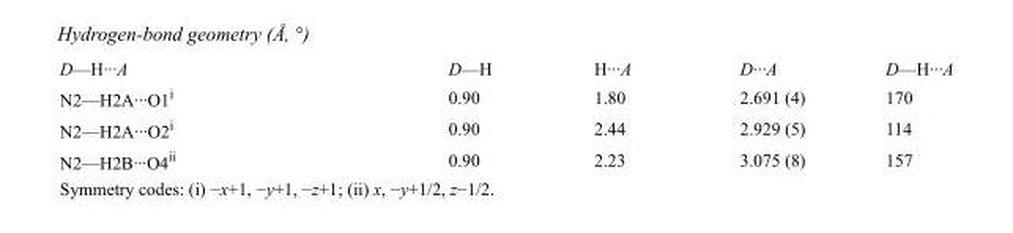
<table><tbody><tr><td>D—H···A</td><td>D—H</td><td>H···A</td><td>D···A</td><td>D—H···A</td></tr><tr><td>N2—H2A···O1<sup>i</sup></td><td>0.90</td><td>1.80</td><td>2.691 (4)</td><td>170</td></tr><tr><td>N2—H2A···O2<sup>i</sup></td><td>0.90</td><td>2.44</td><td>2.929 (5)</td><td>114</td></tr><tr><td>N2—H2B···O4<sup>ii</sup></td><td>0.90</td><td>2.23</td><td>3.075 (8)</td><td>157</td></tr></tbody></table>